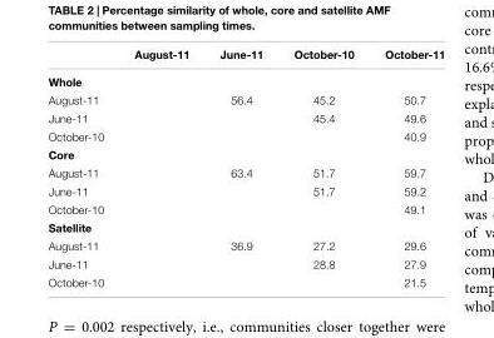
<table><thead><tr><td></td><td>August-11</td><td>June-11</td><td>October-10</td><td>October-11</td></tr></thead><tbody><tr><td colspan="5">Whole</td></tr><tr><td>August-11</td><td></td><td>56.4</td><td>45.2</td><td>50.7</td></tr><tr><td>June-11</td><td></td><td></td><td>45.4</td><td>49.6</td></tr><tr><td>October-10</td><td></td><td></td><td></td><td>40.9</td></tr><tr><td colspan="5">Core</td></tr><tr><td>August-11</td><td></td><td>63.4</td><td>51.7</td><td>59.7</td></tr><tr><td>June-11</td><td></td><td></td><td>51.7</td><td>59.2</td></tr><tr><td>October-10</td><td></td><td></td><td></td><td>49.1</td></tr><tr><td colspan="5">Satellite</td></tr><tr><td>August-11</td><td></td><td>36.9</td><td>27.2</td><td>29.6</td></tr><tr><td>June-11</td><td></td><td></td><td>28.8</td><td>27.9</td></tr><tr><td>October-10</td><td></td><td></td><td></td><td>21.5</td></tr></tbody></table>